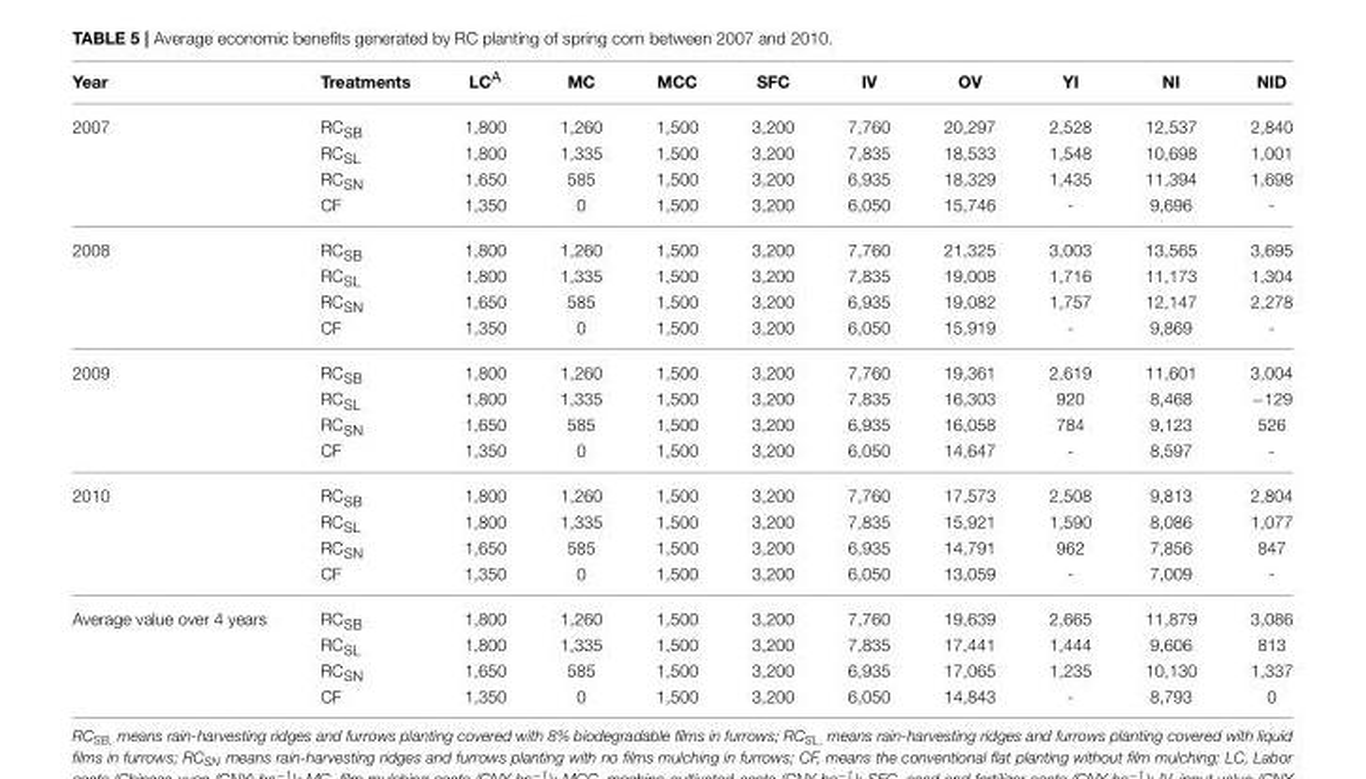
<table><thead><tr><td>Year</td><td>Treatments</td><td>LC<sup>A</sup></td><td>MC</td><td>MCC</td><td>SFC</td><td>IV</td><td>OV</td><td>YI</td><td>NI</td><td>NID</td></tr></thead><tbody><tr><td rowspan="4">2007</td><td>RC<sub>SB</sub></td><td>1,800</td><td>1,260</td><td>1,500</td><td>3,200</td><td>7,760</td><td>20,297</td><td>2,528</td><td>12,537</td><td>2,840</td></tr><tr><td>RC<sub>SL</sub></td><td>1,800</td><td>1,335</td><td>1,500</td><td>3,200</td><td>7,835</td><td>18,533</td><td>1,548</td><td>10,698</td><td>1,001</td></tr><tr><td>RC<sub>SN</sub></td><td>1,650</td><td>585</td><td>1,500</td><td>3,200</td><td>6,935</td><td>18,329</td><td>1,435</td><td>11,394</td><td>1,698</td></tr><tr><td>CF</td><td>1,350</td><td>0</td><td>1,500</td><td>3,200</td><td>6,050</td><td>15,746</td><td>-</td><td>9,696</td><td>-</td></tr><tr><td rowspan="4">2008</td><td>RC<sub>SB</sub></td><td>1,800</td><td>1,260</td><td>1,500</td><td>3,200</td><td>7,760</td><td>21,325</td><td>3,003</td><td>13,565</td><td>3,695</td></tr><tr><td>RC<sub>SL</sub></td><td>1,800</td><td>1,335</td><td>1,500</td><td>3,200</td><td>7,835</td><td>19,008</td><td>1,716</td><td>11,173</td><td>1,304</td></tr><tr><td>RC<sub>SN</sub></td><td>1,650</td><td>585</td><td>1,500</td><td>3,200</td><td>6,935</td><td>19,082</td><td>1,757</td><td>12,147</td><td>2,278</td></tr><tr><td>CF</td><td>1,350</td><td>0</td><td>1,500</td><td>3,200</td><td>6,050</td><td>15,919</td><td>-</td><td>9,869</td><td>-</td></tr><tr><td rowspan="4">2009</td><td>RC<sub>SB</sub></td><td>1,800</td><td>1,260</td><td>1,500</td><td>3,200</td><td>7,760</td><td>19,361</td><td>2,619</td><td>11,601</td><td>3,004</td></tr><tr><td>RC<sub>SL</sub></td><td>1,800</td><td>1,335</td><td>1,500</td><td>3,200</td><td>7,835</td><td>16,303</td><td>920</td><td>8,468</td><td>−129</td></tr><tr><td>RC<sub>SN</sub></td><td>1,650</td><td>585</td><td>1,500</td><td>3,200</td><td>6,935</td><td>16,058</td><td>784</td><td>9,123</td><td>526</td></tr><tr><td>CF</td><td>1,350</td><td>0</td><td>1,500</td><td>3,200</td><td>6,050</td><td>14,647</td><td>-</td><td>8,597</td><td>-</td></tr><tr><td rowspan="4">2010</td><td>RC<sub>SB</sub></td><td>1,800</td><td>1,260</td><td>1,500</td><td>3,200</td><td>7,760</td><td>17,573</td><td>2,508</td><td>9,813</td><td>2,804</td></tr><tr><td>RC<sub>SL</sub></td><td>1,800</td><td>1,335</td><td>1,500</td><td>3,200</td><td>7,835</td><td>15,921</td><td>1,590</td><td>8,086</td><td>1,077</td></tr><tr><td>RC<sub>SN</sub></td><td>1,650</td><td>585</td><td>1,500</td><td>3,200</td><td>6,935</td><td>14,791</td><td>962</td><td>7,856</td><td>847</td></tr><tr><td>CF</td><td>1,350</td><td>0</td><td>1,500</td><td>3,200</td><td>6,050</td><td>13,059</td><td>-</td><td>7,009</td><td>-</td></tr><tr><td rowspan="4">Average value over 4 years</td><td>RC<sub>SB</sub></td><td>1,800</td><td>1,260</td><td>1,500</td><td>3,200</td><td>7,760</td><td>19,639</td><td>2,665</td><td>11,879</td><td>3,086</td></tr><tr><td>RC<sub>SL</sub></td><td>1,800</td><td>1,335</td><td>1,500</td><td>3,200</td><td>7,835</td><td>17,441</td><td>1,444</td><td>9,606</td><td>813</td></tr><tr><td>RC<sub>SN</sub></td><td>1,650</td><td>585</td><td>1,500</td><td>3,200</td><td>6,935</td><td>17,065</td><td>1,235</td><td>10,130</td><td>1,337</td></tr><tr><td>CF</td><td>1,350</td><td>0</td><td>1,500</td><td>3,200</td><td>6,050</td><td>14,843</td><td>-</td><td>8,793</td><td>0</td></tr></tbody></table>